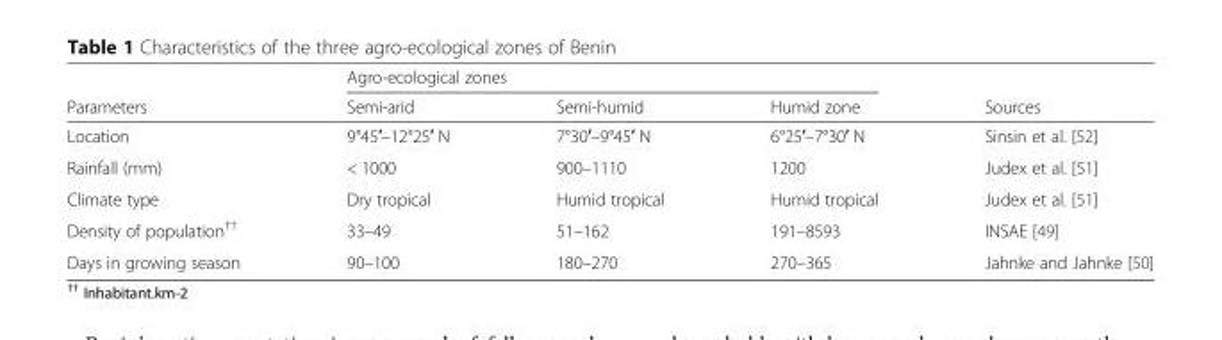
<table><thead><tr><td rowspan="2">Parameters</td><td colspan="3">Agro-ecological zones</td><td rowspan="2">Sources</td></tr><tr><td>Semi-arid</td><td>Semi-humid</td><td>Humid zone</td></tr></thead><tbody><tr><td>Location</td><td>9°45′–12°25′ N</td><td>7°30′–9°45′ N</td><td>6°25′–7°30′ N</td><td>Sinsin et al. [52]</td></tr><tr><td>Rainfall (mm)</td><td>&lt; 1000</td><td>900–1110</td><td>1200</td><td>Judex et al. [51]</td></tr><tr><td>Climate type</td><td>Dry tropical</td><td>Humid tropical</td><td>Humid tropical</td><td>Judex et al. [51]</td></tr><tr><td>Density of population<sup>††</sup></td><td>33–49</td><td>51–162</td><td>191–8593</td><td>INSAE [49]</td></tr><tr><td>Days in growing season</td><td>90–100</td><td>180–270</td><td>270–365</td><td>Jahnke and Jahnke [50]</td></tr></tbody></table>